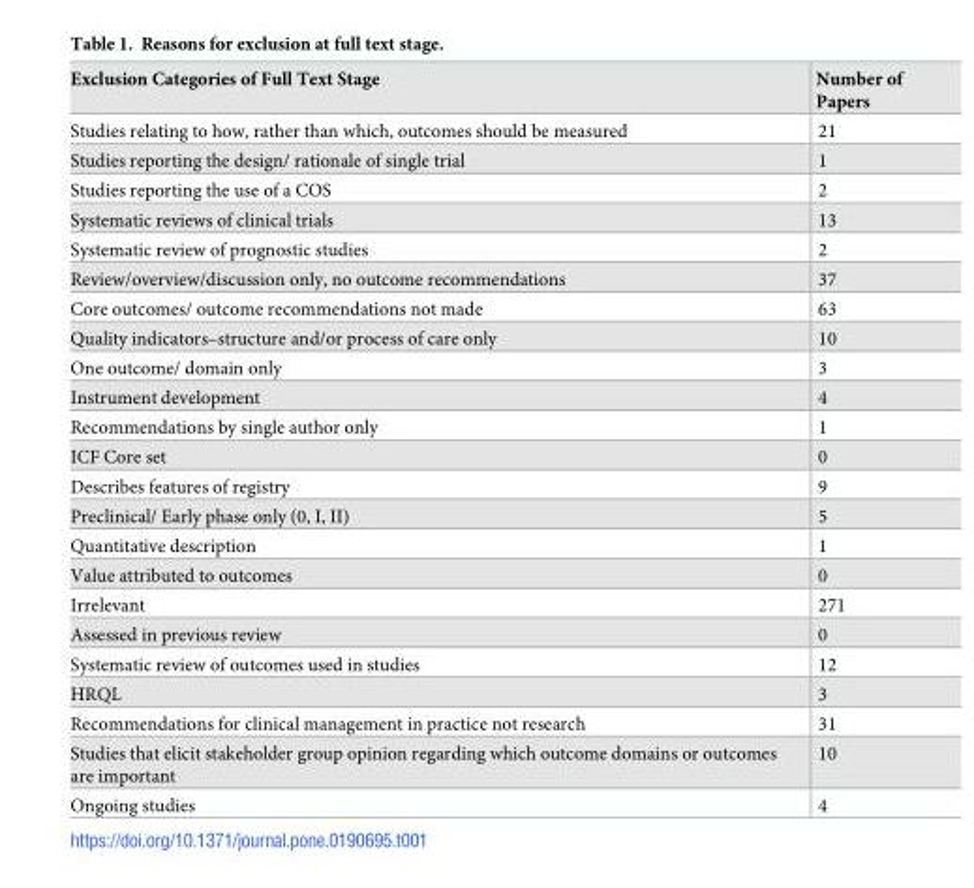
<table><thead><tr><td>Exclusion Categories of Full Text Stage</td><td>Number of Papers</td></tr></thead><tbody><tr><td>Studies relating to how, rather than which, outcomes should be measured</td><td>21</td></tr><tr><td>Studies reporting the design/ rationale of single trial</td><td>1</td></tr><tr><td>Studies reporting the use of a COS</td><td>2</td></tr><tr><td>Systematic reviews of clinical trials</td><td>13</td></tr><tr><td>Systematic review of prognostic studies</td><td>2</td></tr><tr><td>Review/overview/discussion only, no outcome recommendations</td><td>37</td></tr><tr><td>Core outcomes/ outcome recommendations not made</td><td>63</td></tr><tr><td>Quality indicators–structure and/or process of care only</td><td>10</td></tr><tr><td>One outcome/ domain only</td><td>3</td></tr><tr><td>Instrument development</td><td>4</td></tr><tr><td>Recommendations by single author only</td><td>1</td></tr><tr><td>ICF Core set</td><td>0</td></tr><tr><td>Describes features of registry</td><td>9</td></tr><tr><td>Preclinical/ Early phase only (0, I, II)</td><td>5</td></tr><tr><td>Quantitative description</td><td>1</td></tr><tr><td>Value attributed to outcomes</td><td>0</td></tr><tr><td>Irrelevant</td><td>271</td></tr><tr><td>Assessed in previous review</td><td>0</td></tr><tr><td>Systematic review of outcomes used in studies</td><td>12</td></tr><tr><td>HRQL</td><td>3</td></tr><tr><td>Recommendations for clinical management in practice not research</td><td>31</td></tr><tr><td>Studies that elicit stakeholder group opinion regarding which outcome domains or outcomes are important</td><td>10</td></tr><tr><td>Ongoing studies</td><td>4</td></tr></tbody></table>